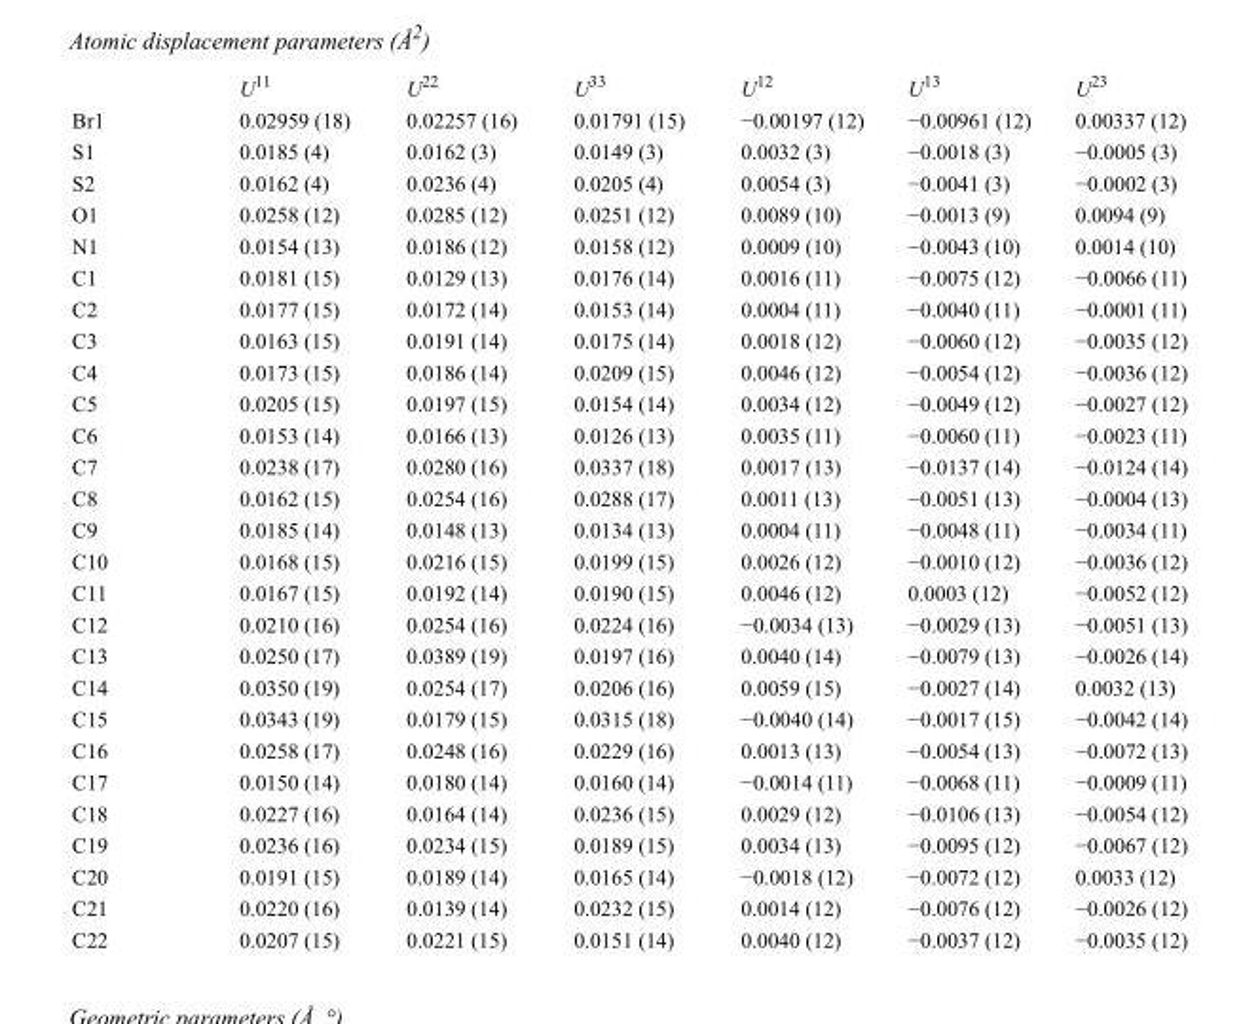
<table><thead><tr><td></td><td>U<sup>11</sup></td><td>U<sup>22</sup></td><td>U<sup>33</sup></td><td>U<sup>12</sup></td><td>U<sup>13</sup></td><td>U<sup>23</sup></td></tr></thead><tbody><tr><td>Br1</td><td>0.02959 (18)</td><td>0.02257 (16)</td><td>0.01791 (15)</td><td>−0.00197 (12)</td><td>−0.00961 (12)</td><td>0.00337 (12)</td></tr><tr><td>S1</td><td>0.0185 (4)</td><td>0.0162 (3)</td><td>0.0149 (3)</td><td>0.0032 (3)</td><td>−0.0018 (3)</td><td>−0.0005 (3)</td></tr><tr><td>S2</td><td>0.0162 (4)</td><td>0.0236 (4)</td><td>0.0205 (4)</td><td>0.0054 (3)</td><td>−0.0041 (3)</td><td>−0.0002 (3)</td></tr><tr><td>O1</td><td>0.0258 (12)</td><td>0.0285 (12)</td><td>0.0251 (12)</td><td>0.0089 (10)</td><td>−0.0013 (9)</td><td>0.0094 (9)</td></tr><tr><td>N1</td><td>0.0154 (13)</td><td>0.0186 (12)</td><td>0.0158 (12)</td><td>0.0009 (10)</td><td>−0.0043 (10)</td><td>0.0014 (10)</td></tr><tr><td>C1</td><td>0.0181 (15)</td><td>0.0129 (13)</td><td>0.0176 (14)</td><td>0.0016 (11)</td><td>−0.0075 (12)</td><td>−0.0066 (11)</td></tr><tr><td>C2</td><td>0.0177 (15)</td><td>0.0172 (14)</td><td>0.0153 (14)</td><td>0.0004 (11)</td><td>−0.0040 (11)</td><td>−0.0001 (11)</td></tr><tr><td>C3</td><td>0.0163 (15)</td><td>0.0191 (14)</td><td>0.0175 (14)</td><td>0.0018 (12)</td><td>−0.0060 (12)</td><td>−0.0035 (12)</td></tr><tr><td>C4</td><td>0.0173 (15)</td><td>0.0186 (14)</td><td>0.0209 (15)</td><td>0.0046 (12)</td><td>−0.0054 (12)</td><td>−0.0036 (12)</td></tr><tr><td>C5</td><td>0.0205 (15)</td><td>0.0197 (15)</td><td>0.0154 (14)</td><td>0.0034 (12)</td><td>−0.0049 (12)</td><td>−0.0027 (12)</td></tr><tr><td>C6</td><td>0.0153 (14)</td><td>0.0166 (13)</td><td>0.0126 (13)</td><td>0.0035 (11)</td><td>−0.0060 (11)</td><td>−0.0023 (11)</td></tr><tr><td>C7</td><td>0.0238 (17)</td><td>0.0280 (16)</td><td>0.0337 (18)</td><td>0.0017 (13)</td><td>−0.0137 (14)</td><td>−0.0124 (14)</td></tr><tr><td>C8</td><td>0.0162 (15)</td><td>0.0254 (16)</td><td>0.0288 (17)</td><td>0.0011 (13)</td><td>−0.0051 (13)</td><td>−0.0004 (13)</td></tr><tr><td>C9</td><td>0.0185 (14)</td><td>0.0148 (13)</td><td>0.0134 (13)</td><td>0.0004 (11)</td><td>−0.0048 (11)</td><td>−0.0034 (11)</td></tr><tr><td>C10</td><td>0.0168 (15)</td><td>0.0216 (15)</td><td>0.0199 (15)</td><td>0.0026 (12)</td><td>−0.0010 (12)</td><td>−0.0036 (12)</td></tr><tr><td>C11</td><td>0.0167 (15)</td><td>0.0192 (14)</td><td>0.0190 (15)</td><td>0.0046 (12)</td><td>0.0003 (12)</td><td>−0.0052 (12)</td></tr><tr><td>C12</td><td>0.0210 (16)</td><td>0.0254 (16)</td><td>0.0224 (16)</td><td>−0.0034 (13)</td><td>−0.0029 (13)</td><td>−0.0051 (13)</td></tr><tr><td>C13</td><td>0.0250 (17)</td><td>0.0389 (19)</td><td>0.0197 (16)</td><td>0.0040 (14)</td><td>−0.0079 (13)</td><td>−0.0026 (14)</td></tr><tr><td>C14</td><td>0.0350 (19)</td><td>0.0254 (17)</td><td>0.0206 (16)</td><td>0.0059 (15)</td><td>−0.0027 (14)</td><td>0.0032 (13)</td></tr><tr><td>C15</td><td>0.0343 (19)</td><td>0.0179 (15)</td><td>0.0315 (18)</td><td>−0.0040 (14)</td><td>−0.0017 (15)</td><td>−0.0042 (14)</td></tr><tr><td>C16</td><td>0.0258 (17)</td><td>0.0248 (16)</td><td>0.0229 (16)</td><td>0.0013 (13)</td><td>−0.0054 (13)</td><td>−0.0072 (13)</td></tr><tr><td>C17</td><td>0.0150 (14)</td><td>0.0180 (14)</td><td>0.0160 (14)</td><td>−0.0014 (11)</td><td>−0.0068 (11)</td><td>−0.0009 (11)</td></tr><tr><td>C18</td><td>0.0227 (16)</td><td>0.0164 (14)</td><td>0.0236 (15)</td><td>0.0029 (12)</td><td>−0.0106 (13)</td><td>−0.0054 (12)</td></tr><tr><td>C19</td><td>0.0236 (16)</td><td>0.0234 (15)</td><td>0.0189 (15)</td><td>0.0034 (13)</td><td>−0.0095 (12)</td><td>−0.0067 (12)</td></tr><tr><td>C20</td><td>0.0191 (15)</td><td>0.0189 (14)</td><td>0.0165 (14)</td><td>−0.0018 (12)</td><td>−0.0072 (12)</td><td>0.0033 (12)</td></tr><tr><td>C21</td><td>0.0220 (16)</td><td>0.0139 (14)</td><td>0.0232 (15)</td><td>0.0014 (12)</td><td>−0.0076 (12)</td><td>−0.0026 (12)</td></tr><tr><td>C22</td><td>0.0207 (15)</td><td>0.0221 (15)</td><td>0.0151 (14)</td><td>0.0040 (12)</td><td>−0.0037 (12)</td><td>−0.0035 (12)</td></tr></tbody></table>